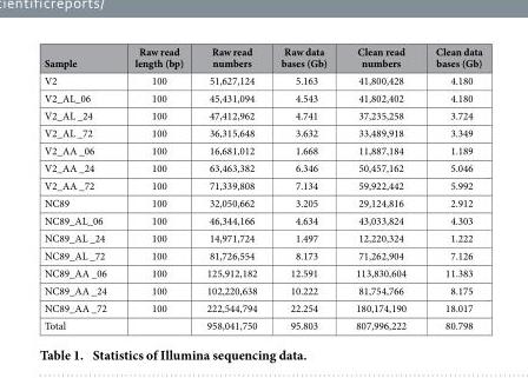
<table><thead><tr><td>Sample</td><td>Raw read length (bp)</td><td>Raw read numbers</td><td>Raw data bases (Gb)</td><td>Clean read numbers</td><td>Clean data bases (Gb)</td></tr></thead><tbody><tr><td>V2</td><td>100</td><td>51,627,124</td><td>5.163</td><td>41,800,428</td><td>4.180</td></tr><tr><td>V2_AL_06</td><td>100</td><td>45,431,094</td><td>4.543</td><td>41,802,402</td><td>4.180</td></tr><tr><td>V2_AL _24</td><td>100</td><td>47,412,962</td><td>4.741</td><td>37,235,258</td><td>3.724</td></tr><tr><td>V2_AL _72</td><td>100</td><td>36,315,648</td><td>3.632</td><td>33,489,918</td><td>3.349</td></tr><tr><td>V2_AA _06</td><td>100</td><td>16,681,012</td><td>1.668</td><td>11,887,184</td><td>1.189</td></tr><tr><td>V2_AA _24</td><td>100</td><td>63,463,382</td><td>6.346</td><td>50,457,162</td><td>5.046</td></tr><tr><td>V2_AA _72</td><td>100</td><td>71,339,808</td><td>7.134</td><td>59,922,442</td><td>5.992</td></tr><tr><td>NC89</td><td>100</td><td>32,050,662</td><td>3.205</td><td>29,124,816</td><td>2.912</td></tr><tr><td>NC89_AL_06</td><td>100</td><td>46,344,166</td><td>4.634</td><td>43,033,824</td><td>4.303</td></tr><tr><td>NC89_AL _24</td><td>100</td><td>14,971,724</td><td>1.497</td><td>12,220,324</td><td>1.222</td></tr><tr><td>NC89_AL _72</td><td>100</td><td>81,726,554</td><td>8.173</td><td>71,262,904</td><td>7.126</td></tr><tr><td>NC89_AA _06</td><td>100</td><td>125,912,182</td><td>12.591</td><td>113,830,604</td><td>11.383</td></tr><tr><td>NC89_AA _24</td><td>100</td><td>102,220,638</td><td>10.222</td><td>81,754,766</td><td>8.175</td></tr><tr><td>NC89_AA _72</td><td>100</td><td>222,544,794</td><td>22.254</td><td>180,174,190</td><td>18.017</td></tr><tr><td>Total</td><td></td><td>958,041,750</td><td>95.803</td><td>807,996,222</td><td>80.798</td></tr></tbody></table>